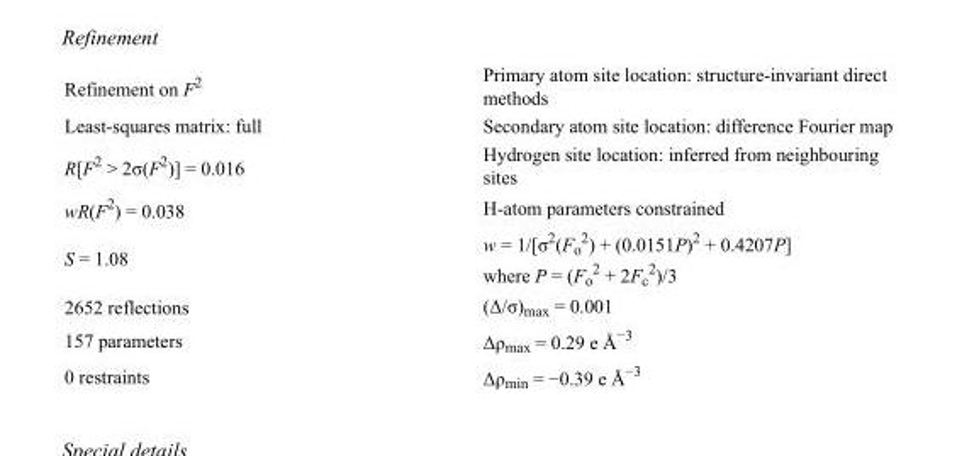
<table><tbody><tr><td>Refinement on F<sup>2</sup></td><td>Primary atom site location: structure-invariant direct methods</td></tr><tr><td>Least-squares matrix: full</td><td>Secondary atom site location: difference Fourier map</td></tr><tr><td>R[F<sup>2</sup> &gt; 2σ(F<sup>2</sup>)] = 0.016</td><td>Hydrogen site location: inferred from neighbouring sites</td></tr><tr><td>wR(F<sup>2</sup>) = 0.038</td><td>H-atom parameters constrained</td></tr><tr><td>S = 1.08</td><td>w = 1/[σ<sup>2</sup>(F<sub>o</sub> <sup>2</sup>) + (0.0151P)<sup>2</sup> + 0.4207P] where P = (F<sub>o</sub> <sup>2</sup> + 2F<sub>c</sub> <sup>2</sup>)/3</td></tr><tr><td>2652 reflections</td><td>(Δ/σ)<sub>max</sub> = 0.001</td></tr><tr><td>157 parameters</td><td>Δρ<sub>max</sub> = 0.29 e Å<sup>−3</sup></td></tr><tr><td>0 restraints</td><td>Δρ<sub>min</sub> = −0.39 e Å<sup>−3</sup></td></tr></tbody></table>